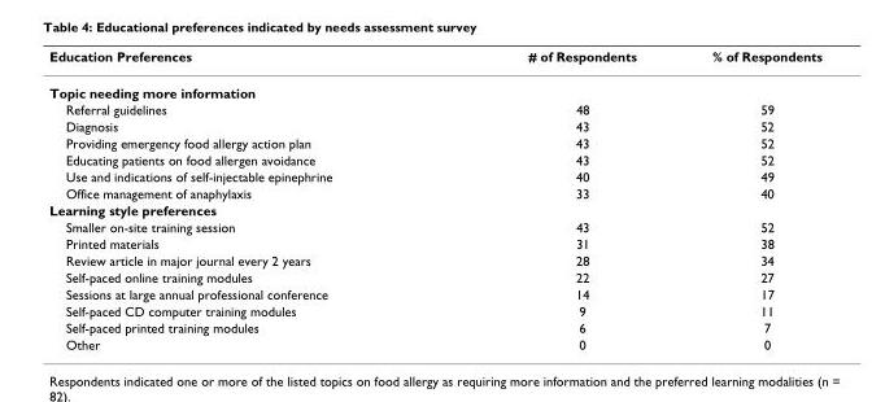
<table><thead><tr><td>Education Preferences</td><td># of Respondents</td><td>% of Respondents</td></tr></thead><tbody><tr><td colspan="3">Topic needing more information</td></tr><tr><td>Referral guidelines</td><td>48</td><td>59</td></tr><tr><td>Diagnosis</td><td>43</td><td>52</td></tr><tr><td>Providing emergency food allergy action plan</td><td>43</td><td>52</td></tr><tr><td>Educating patients on food allergen avoidance</td><td>43</td><td>52</td></tr><tr><td>Use and indications of self-injectable epinephrine</td><td>40</td><td>49</td></tr><tr><td>Office management of anaphylaxis</td><td>33</td><td>40</td></tr><tr><td colspan="3">Learning style preferences</td></tr><tr><td>Smaller on-site training session</td><td>43</td><td>52</td></tr><tr><td>Printed materials</td><td>31</td><td>38</td></tr><tr><td>Review article in major journal every 2 years</td><td>28</td><td>34</td></tr><tr><td>Self-paced online training modules</td><td>22</td><td>27</td></tr><tr><td>Sessions at large annual professional conference</td><td>14</td><td>17</td></tr><tr><td>Self-paced CD computer training modules</td><td>9</td><td>11</td></tr><tr><td>Self-paced printed training modules</td><td>6</td><td>7</td></tr><tr><td>Other</td><td>0</td><td>0</td></tr></tbody></table>